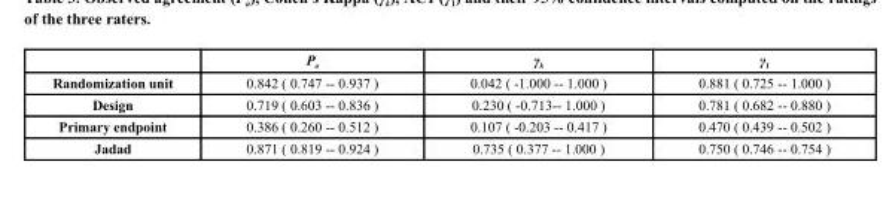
<table><thead><tr><td></td><td>P<sub>a</sub></td><td>γ<sub>k</sub></td><td>γ<sub>1</sub></td></tr></thead><tbody><tr><td>Randomization unit</td><td>0.842 ( 0.747 -- 0.937 )</td><td>0.042 ( -1.000 -- 1.000 )</td><td>0.881 ( 0.725 -- 1.000 )</td></tr><tr><td>Design</td><td>0.719 ( 0.603 -- 0.836 )</td><td>0.230 ( -0.713-- 1.000 )</td><td>0.781 ( 0.682 -- 0.880 )</td></tr><tr><td>Primary endpoint</td><td>0.386 ( 0.260 -- 0.512 )</td><td>0.107 ( -0.203 -- 0.417 )</td><td>0.470 ( 0.439 -- 0.502 )</td></tr><tr><td>Jadad</td><td>0.871 ( 0.819 -- 0.924 )</td><td>0.735 ( 0.377 -- 1.000 )</td><td>0.750 ( 0.746 -- 0.754 )</td></tr></tbody></table>